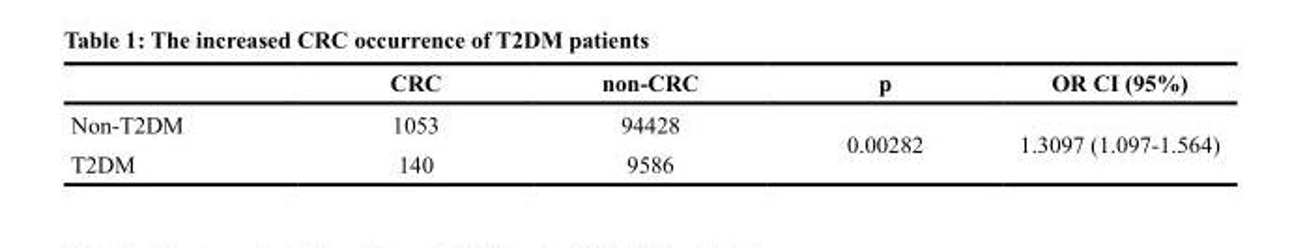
<table><thead><tr><td></td><td>CRC</td><td>non-CRC</td><td>p</td><td>OR CI (95%)</td></tr></thead><tbody><tr><td>Non-T2DM</td><td>1053</td><td>94428</td><td rowspan="2">0.00282</td><td rowspan="2">1.3097 (1.097-1.564)</td></tr><tr><td>T2DM</td><td>140</td><td>9586</td></tr></tbody></table>